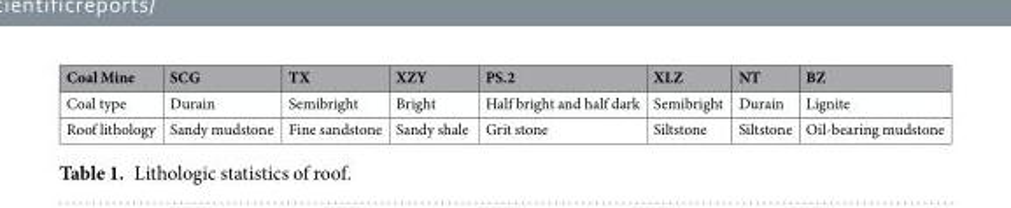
<table><thead><tr><td>Coal Mine</td><td>SCG</td><td>TX</td><td>XZY</td><td>PS.2</td><td>XLZ</td><td>NT</td><td>BZ</td></tr></thead><tbody><tr><td>Coal type</td><td>Durain</td><td>Semibright</td><td>Bright</td><td>Half bright and half dark</td><td>Semibright</td><td>Durain</td><td>Lignite</td></tr><tr><td>Roof lithology</td><td>Sandy mudstone</td><td>Fine sandstone</td><td>Sandy shale</td><td>Grit stone</td><td>Siltstone</td><td>Siltstone</td><td>Oil-bearing mudstone</td></tr></tbody></table>